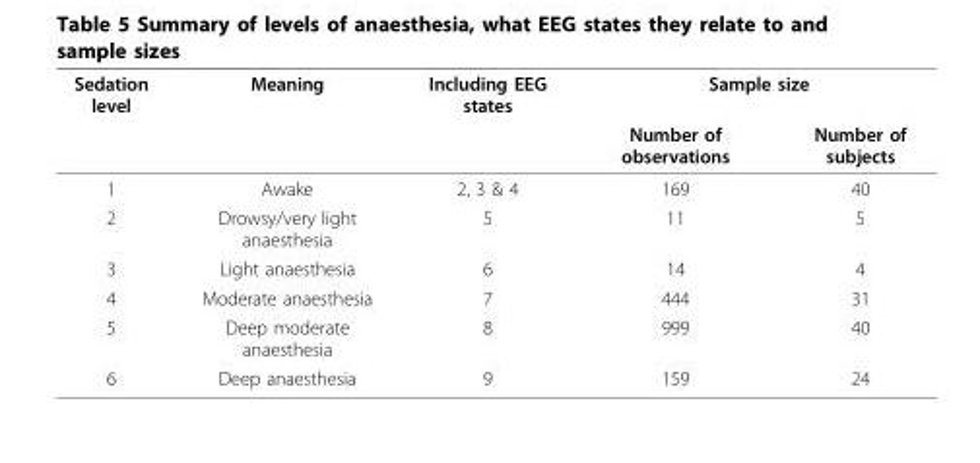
<table><thead><tr><td rowspan="2">Sedation level</td><td rowspan="2">Meaning</td><td rowspan="2">Including EEG states</td><td colspan="2">Sample size</td></tr><tr><td>Number of observations</td><td>Number of subjects</td></tr></thead><tbody><tr><td>1</td><td>Awake</td><td>2, 3 &amp; 4</td><td>169</td><td>40</td></tr><tr><td>2</td><td>Drowsy/very light anaesthesia</td><td>5</td><td>11</td><td>5</td></tr><tr><td>3</td><td>Light anaesthesia</td><td>6</td><td>14</td><td>4</td></tr><tr><td>4</td><td>Moderate anaesthesia</td><td>7</td><td>444</td><td>31</td></tr><tr><td>5</td><td>Deep moderate anaesthesia</td><td>8</td><td>999</td><td>40</td></tr><tr><td>6</td><td>Deep anaesthesia</td><td>9</td><td>159</td><td>24</td></tr></tbody></table>